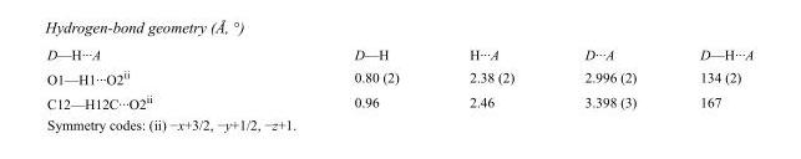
<table><tbody><tr><td>D—H···A</td><td>D—H</td><td>H···A</td><td>D···A</td><td>D—H···A</td></tr><tr><td>O1—H1···O2<sup>ii</sup></td><td>0.80 (2)</td><td>2.38 (2)</td><td>2.996 (2)</td><td>134 (2)</td></tr><tr><td>C12—H12C···O2<sup>ii</sup></td><td>0.96</td><td>2.46</td><td>3.398 (3)</td><td>167</td></tr></tbody></table>